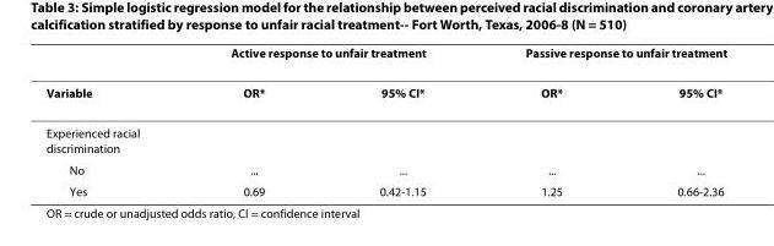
<table><thead><tr><td rowspan="2">Variable</td><td colspan="2">Active response to unfair treatment</td><td colspan="2">Passive response to unfair treatment</td></tr><tr><td>OR*</td><td>95% CI*</td><td>OR*</td><td>95% CI*</td></tr></thead><tbody><tr><td colspan="5">Experienced racial discrimination</td></tr><tr><td>No</td><td>...</td><td>...</td><td>...</td><td>...</td></tr><tr><td>Yes</td><td>0.69</td><td>0.42-1.15</td><td>1.25</td><td>0.66-2.36</td></tr></tbody></table>